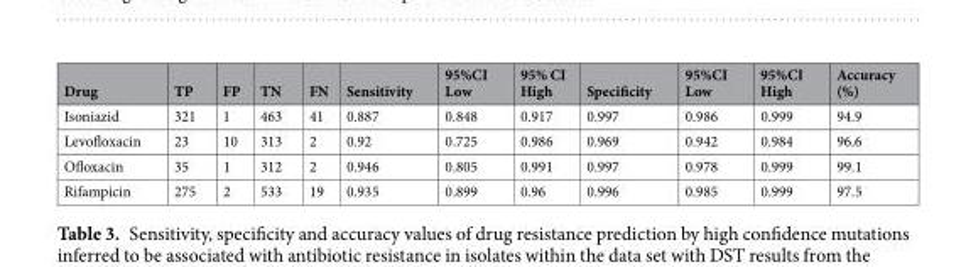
<table><thead><tr><td>Drug</td><td>TP</td><td>FP</td><td>TN</td><td>FN</td><td>Sensitivity</td><td>95%CI Low</td><td>95% CI High</td><td>Specificity</td><td>95%CI Low</td><td>95%CI High</td><td>Accuracy (%)</td></tr></thead><tbody><tr><td>Isoniazid</td><td>321</td><td>1</td><td>463</td><td>41</td><td>0.887</td><td>0.848</td><td>0.917</td><td>0.997</td><td>0.986</td><td>0.999</td><td>94.9</td></tr><tr><td>Levofloxacin</td><td>23</td><td>10</td><td>313</td><td>2</td><td>0.92</td><td>0.725</td><td>0.986</td><td>0.969</td><td>0.942</td><td>0.984</td><td>96.6</td></tr><tr><td>Ofloxacin</td><td>35</td><td>1</td><td>312</td><td>2</td><td>0.946</td><td>0.805</td><td>0.991</td><td>0.997</td><td>0.978</td><td>0.999</td><td>99.1</td></tr><tr><td>Rifampicin</td><td>275</td><td>2</td><td>533</td><td>19</td><td>0.935</td><td>0.899</td><td>0.96</td><td>0.996</td><td>0.985</td><td>0.999</td><td>97.5</td></tr></tbody></table>